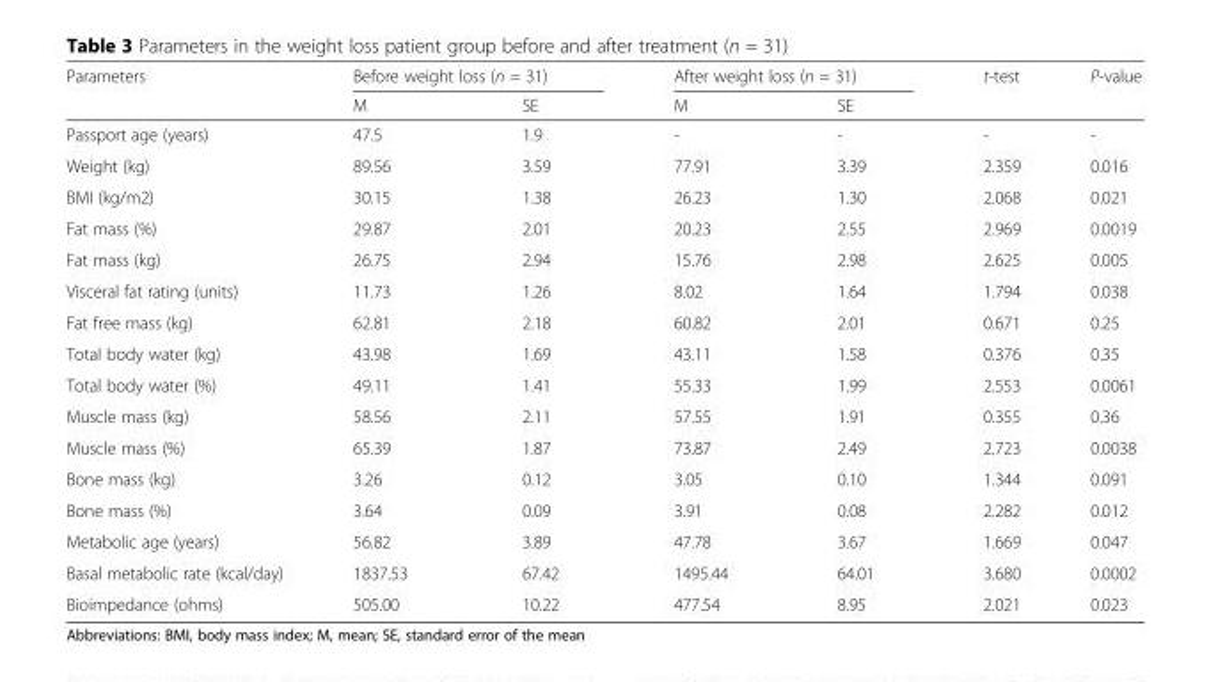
<table><thead><tr><td rowspan="2">Parameters</td><td colspan="2">Before weight loss (n = 31)</td><td colspan="2">After weight loss (n = 31)</td><td rowspan="2">t-test</td><td rowspan="2">P-value</td></tr><tr><td>M</td><td>SE</td><td>M</td><td>SE</td></tr></thead><tbody><tr><td>Passport age (years)</td><td>47.5</td><td>1.9</td><td>-</td><td>-</td><td>-</td><td>-</td></tr><tr><td>Weight (kg)</td><td>89.56</td><td>3.59</td><td>77.91</td><td>3.39</td><td>2.359</td><td>0.016</td></tr><tr><td>BMI (kg/m2)</td><td>30.15</td><td>1.38</td><td>26.23</td><td>1.30</td><td>2.068</td><td>0.021</td></tr><tr><td>Fat mass (%)</td><td>29.87</td><td>2.01</td><td>20.23</td><td>2.55</td><td>2.969</td><td>0.0019</td></tr><tr><td>Fat mass (kg)</td><td>26.75</td><td>2.94</td><td>15.76</td><td>2.98</td><td>2.625</td><td>0.005</td></tr><tr><td>Visceral fat rating (units)</td><td>11.73</td><td>1.26</td><td>8.02</td><td>1.64</td><td>1.794</td><td>0.038</td></tr><tr><td>Fat free mass (kg)</td><td>62.81</td><td>2.18</td><td>60.82</td><td>2.01</td><td>0.671</td><td>0.25</td></tr><tr><td>Total body water (kg)</td><td>43.98</td><td>1.69</td><td>43.11</td><td>1.58</td><td>0.376</td><td>0.35</td></tr><tr><td>Total body water (%)</td><td>49.11</td><td>1.41</td><td>55.33</td><td>1.99</td><td>2.553</td><td>0.0061</td></tr><tr><td>Muscle mass (kg)</td><td>58.56</td><td>2.11</td><td>57.55</td><td>1.91</td><td>0.355</td><td>0.36</td></tr><tr><td>Muscle mass (%)</td><td>65.39</td><td>1.87</td><td>73.87</td><td>2.49</td><td>2.723</td><td>0.0038</td></tr><tr><td>Bone mass (kg)</td><td>3.26</td><td>0.12</td><td>3.05</td><td>0.10</td><td>1.344</td><td>0.091</td></tr><tr><td>Bone mass (%)</td><td>3.64</td><td>0.09</td><td>3.91</td><td>0.08</td><td>2.282</td><td>0.012</td></tr><tr><td>Metabolic age (years)</td><td>56.82</td><td>3.89</td><td>47.78</td><td>3.67</td><td>1.669</td><td>0.047</td></tr><tr><td>Basal metabolic rate (kcal/day)</td><td>1837.53</td><td>67.42</td><td>1495.44</td><td>64.01</td><td>3.680</td><td>0.0002</td></tr><tr><td>Bioimpedance (ohms)</td><td>505.00</td><td>10.22</td><td>477.54</td><td>8.95</td><td>2.021</td><td>0.023</td></tr></tbody></table>